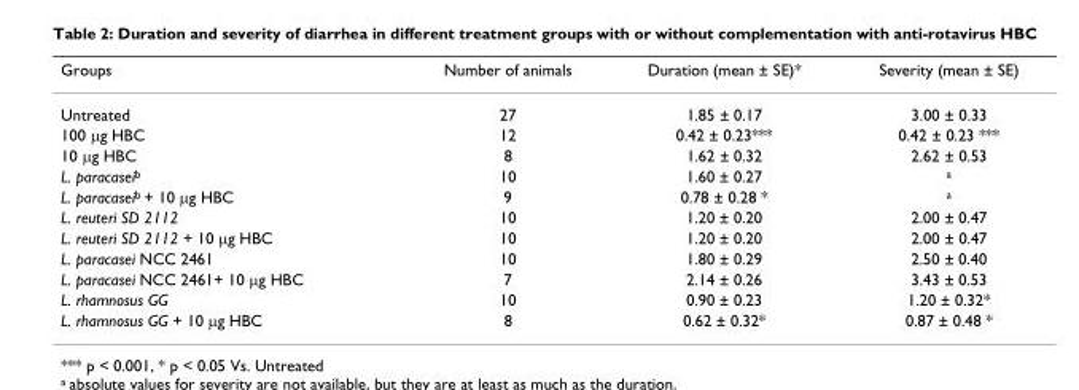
<table><thead><tr><td>Groups</td><td>Number of animals</td><td>Duration (mean ± SE)*</td><td>Severity (mean ± SE)</td></tr></thead><tbody><tr><td>Untreated</td><td>27</td><td>1.85 ± 0.17</td><td>3.00 ± 0.33</td></tr><tr><td>100 µg HBC</td><td>12</td><td>0.42 ± 0.23***</td><td>0.42 ± 0.23 ***</td></tr><tr><td>10 µg HBC</td><td>8</td><td>1.62 ± 0.32</td><td>2.62 ± 0.53</td></tr><tr><td>L. paracasei<sup>b</sup></td><td>10</td><td>1.60 ± 0.27</td><td><sup>a</sup></td></tr><tr><td>L. paracasei<sup>b</sup> + 10 µg HBC</td><td>9</td><td>0.78 ± 0.28 *</td><td><sup>a</sup></td></tr><tr><td>L. reuteri SD 2112</td><td>10</td><td>1.20 ± 0.20</td><td>2.00 ± 0.47</td></tr><tr><td>L. reuteri SD 2112 + 10 µg HBC</td><td>10</td><td>1.20 ± 0.20</td><td>2.00 ± 0.47</td></tr><tr><td>L. paracasei NCC 2461</td><td>10</td><td>1.80 ± 0.29</td><td>2.50 ± 0.40</td></tr><tr><td>L. paracasei NCC 2461+ 10 µg HBC</td><td>7</td><td>2.14 ± 0.26</td><td>3.43 ± 0.53</td></tr><tr><td>L. rhamnosus GG</td><td>10</td><td>0.90 ± 0.23</td><td>1.20 ± 0.32*</td></tr><tr><td>L. rhamnosus GG + 10 µg HBC</td><td>8</td><td>0.62 ± 0.32*</td><td>0.87 ± 0.48 *</td></tr></tbody></table>